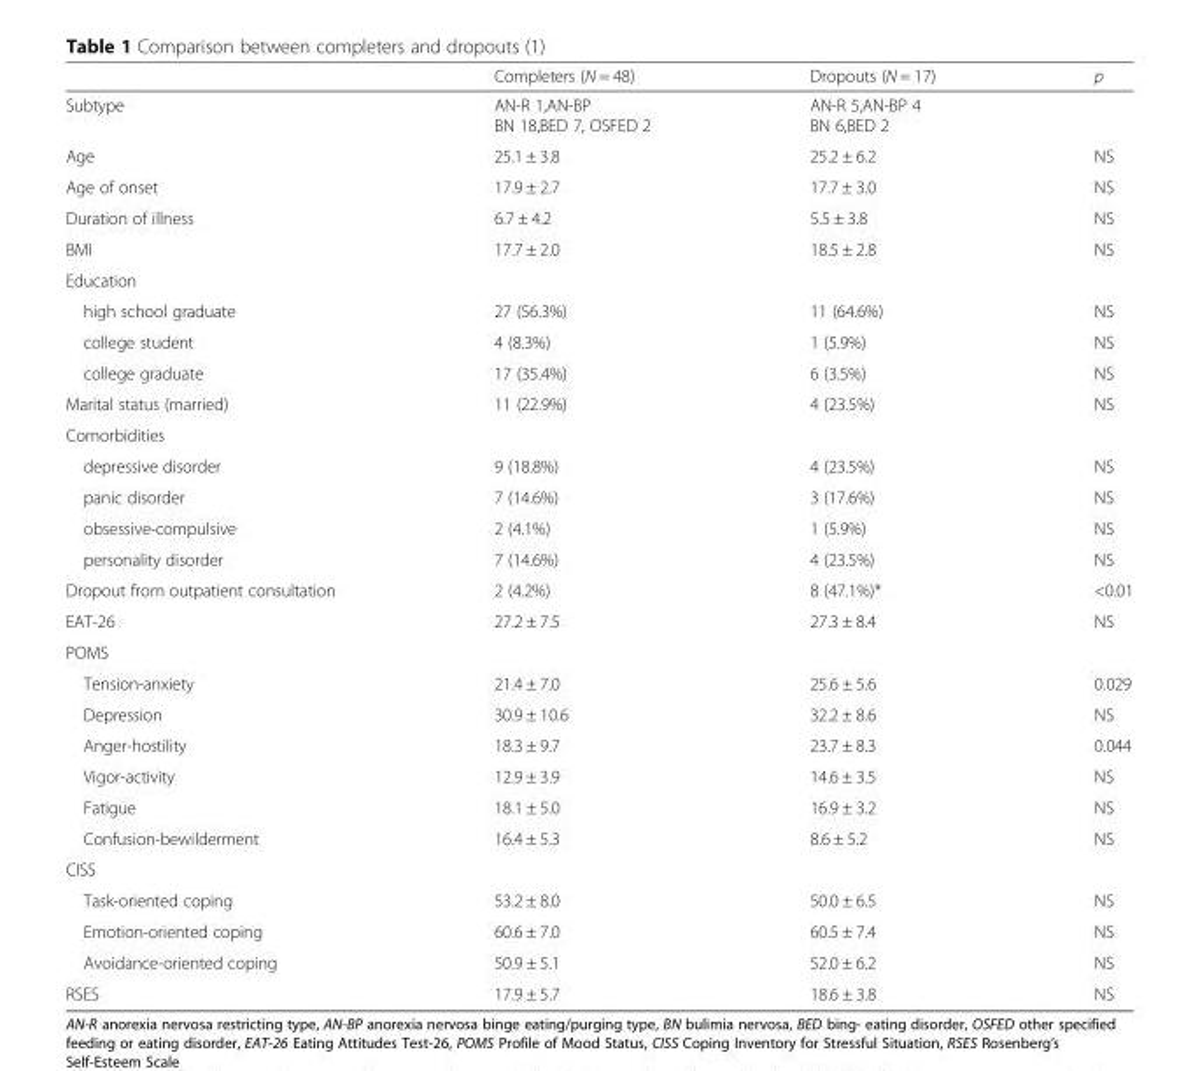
<table><thead><tr><td></td><td>Completers (N = 48)</td><td>Dropouts (N = 17)</td><td>p</td></tr></thead><tbody><tr><td>Subtype</td><td>AN-R 1,AN-BP BN 18,BED 7, OSFED 2</td><td>AN-R 5,AN-BP 4 BN 6,BED 2</td><td></td></tr><tr><td>Age</td><td>25.1 ± 3.8</td><td>25.2 ± 6.2</td><td>NS</td></tr><tr><td>Age of onset</td><td>17.9 ± 2.7</td><td>17.7 ± 3.0</td><td>NS</td></tr><tr><td>Duration of illness</td><td>6.7 ± 4.2</td><td>5.5 ± 3.8</td><td>NS</td></tr><tr><td>BMI</td><td>17.7 ± 2.0</td><td>18.5 ± 2.8</td><td>NS</td></tr><tr><td colspan="4">Education</td></tr><tr><td>high school graduate</td><td>27 (56.3%)</td><td>11 (64.6%)</td><td>NS</td></tr><tr><td>college student</td><td>4 (8.3%)</td><td>1 (5.9%)</td><td>NS</td></tr><tr><td>college graduate</td><td>17 (35.4%)</td><td>6 (3.5%)</td><td>NS</td></tr><tr><td>Marital status (married)</td><td>11 (22.9%)</td><td>4 (23.5%)</td><td>NS</td></tr><tr><td colspan="4">Comorbidities</td></tr><tr><td>depressive disorder</td><td>9 (18.8%)</td><td>4 (23.5%)</td><td>NS</td></tr><tr><td>panic disorder</td><td>7 (14.6%)</td><td>3 (17.6%)</td><td>NS</td></tr><tr><td>obsessive-compulsive</td><td>2 (4.1%)</td><td>1 (5.9%)</td><td>NS</td></tr><tr><td>personality disorder</td><td>7 (14.6%)</td><td>4 (23.5%)</td><td>NS</td></tr><tr><td>Dropout from outpatient consultation</td><td>2 (4.2%)</td><td>8 (47.1%)*</td><td>&lt;0.01</td></tr><tr><td>EAT-26</td><td>27.2 ± 7.5</td><td>27.3 ± 8.4</td><td>NS</td></tr><tr><td colspan="4">POMS</td></tr><tr><td>Tension-anxiety</td><td>21.4 ± 7.0</td><td>25.6 ± 5.6</td><td>0.029</td></tr><tr><td>Depression</td><td>30.9 ± 10.6</td><td>32.2 ± 8.6</td><td>NS</td></tr><tr><td>Anger-hostility</td><td>18.3 ± 9.7</td><td>23.7 ± 8.3</td><td>0.044</td></tr><tr><td>Vigor-activity</td><td>12.9 ± 3.9</td><td>14.6 ± 3.5</td><td>NS</td></tr><tr><td>Fatigue</td><td>18.1 ± 5.0</td><td>16.9 ± 3.2</td><td>NS</td></tr><tr><td>Confusion-bewilderment</td><td>16.4 ± 5.3</td><td>8.6 ± 5.2</td><td>NS</td></tr><tr><td colspan="4">CISS</td></tr><tr><td>Task-oriented coping</td><td>53.2 ± 8.0</td><td>50.0 ± 6.5</td><td>NS</td></tr><tr><td>Emotion-oriented coping</td><td>60.6 ± 7.0</td><td>60.5 ± 7.4</td><td>NS</td></tr><tr><td>Avoidance-oriented coping</td><td>50.9 ± 5.1</td><td>52.0 ± 6.2</td><td>NS</td></tr><tr><td>RSES</td><td>17.9 ± 5.7</td><td>18.6 ± 3.8</td><td>NS</td></tr></tbody></table>